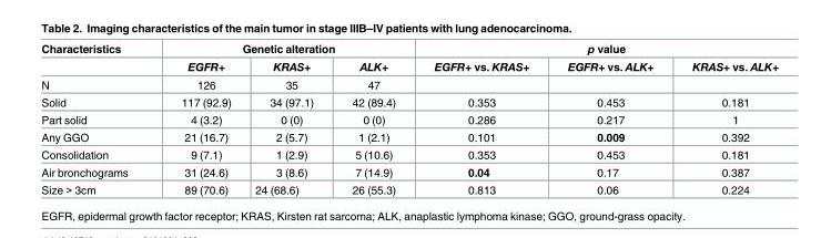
<table><thead><tr><td rowspan="2">Characteristics</td><td colspan="3">Genetic alteration</td><td colspan="3">p value</td></tr><tr><td>EGFR+</td><td>KRAS+</td><td>ALK+</td><td>EGFR+ vs. KRAS+</td><td>EGFR+ vs. ALK+</td><td>KRAS+ vs. ALK+</td></tr></thead><tbody><tr><td>N</td><td>126</td><td>35</td><td>47</td><td></td><td></td><td></td></tr><tr><td>Solid</td><td>117 (92.9)</td><td>34 (97.1)</td><td>42 (89.4)</td><td>0.353</td><td>0.453</td><td>0.181</td></tr><tr><td>Part solid</td><td>4 (3.2)</td><td>0 (0)</td><td>0 (0)</td><td>0.286</td><td>0.217</td><td>1</td></tr><tr><td>Any GGO</td><td>21 (16.7)</td><td>2 (5.7)</td><td>1 (2.1)</td><td>0.101</td><td>0.009</td><td>0.392</td></tr><tr><td>Consolidation</td><td>9 (7.1)</td><td>1 (2.9)</td><td>5 (10.6)</td><td>0.353</td><td>0.453</td><td>0.181</td></tr><tr><td>Air bronchograms</td><td>31 (24.6)</td><td>3 (8.6)</td><td>7 (14.9)</td><td>0.04</td><td>0.17</td><td>0.387</td></tr><tr><td>Size &gt; 3cm</td><td>89 (70.6)</td><td>24 (68.6)</td><td>26 (55.3)</td><td>0.813</td><td>0.06</td><td>0.224</td></tr></tbody></table>